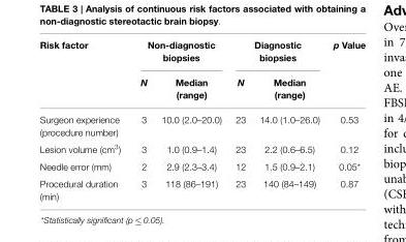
<table><thead><tr><td rowspan="2">Risk factor</td><td colspan="2">Non-diagnostic biopsies</td><td colspan="2">Diagnostic biopsies</td><td rowspan="2">p Value</td></tr><tr><td>N</td><td>Median (range)</td><td>N</td><td>Median (range)</td></tr></thead><tbody><tr><td>Surgeon experience (procedure number)</td><td>3</td><td>10.0 (2.0–20.0)</td><td>23</td><td>14.0 (1.0–26.0)</td><td>0.53</td></tr><tr><td>Lesion volume (cm<sup>3</sup>)</td><td>3</td><td>1.0 (0.9–1.4)</td><td>23</td><td>2.2 (0.6–6.5)</td><td>0.12</td></tr><tr><td>Needle error (mm)</td><td>2</td><td>2.9 (2.3–3.4)</td><td>12</td><td>1.5 (0.9–2.1)</td><td>0.05*</td></tr><tr><td>Procedural duration (min)</td><td>3</td><td>118 (86–191)</td><td>23</td><td>140 (84–149)</td><td>0.87</td></tr></tbody></table>